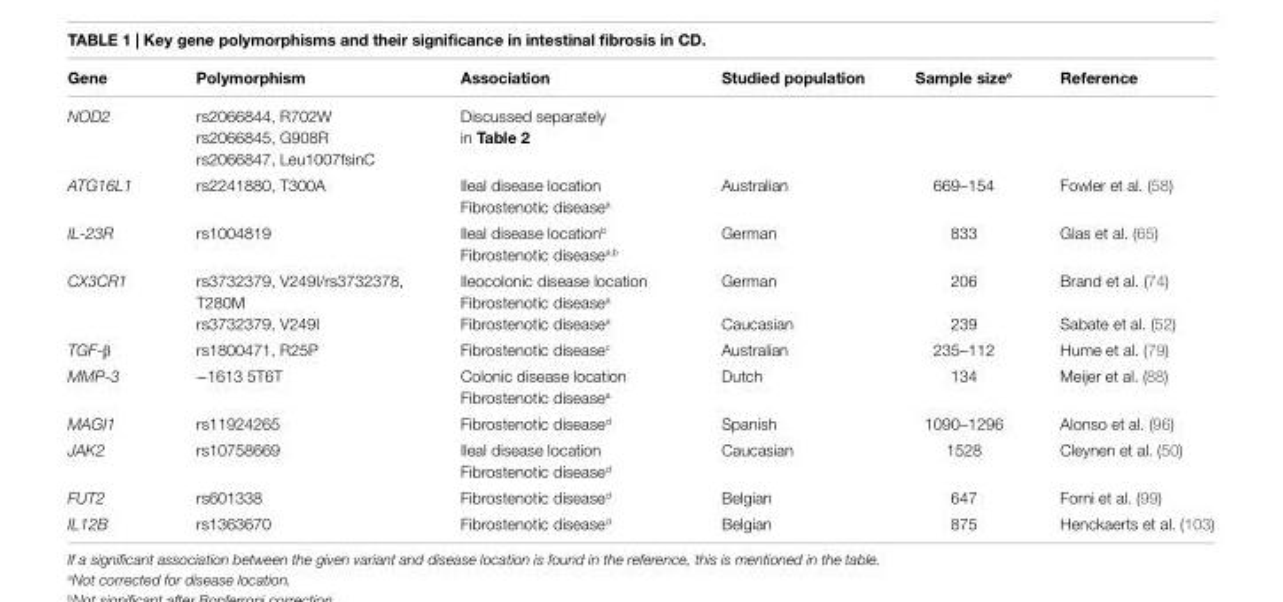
<table><thead><tr><td>Gene</td><td>Polymorphism</td><td>Association</td><td>Studied population</td><td>Sample size<sup>e</sup></td><td>Reference</td></tr></thead><tbody><tr><td rowspan="3">NOD2</td><td>rs2066844, R702W</td><td rowspan="3">Discussed separately in Table 2</td><td rowspan="3"></td><td rowspan="3"></td><td rowspan="3"></td></tr><tr><td>rs2066845, G908R</td></tr><tr><td>rs2066847, Leu1007fsinC</td></tr><tr><td rowspan="2">ATG16L1</td><td rowspan="2">rs2241880, T300A</td><td>Ileal disease location</td><td rowspan="2">Australian</td><td rowspan="2">669–154</td><td rowspan="2">Fowler et al. (58)</td></tr><tr><td>Fibrostenotic disease<sup>a</sup></td></tr><tr><td rowspan="2">IL-23R</td><td rowspan="2">rs1004819</td><td>Ileal disease location<sup>b</sup></td><td rowspan="2">German</td><td rowspan="2">833</td><td rowspan="2">Glas et al. (65)</td></tr><tr><td>Fibrostenotic disease<sup>a,b</sup></td></tr><tr><td rowspan="3">CX3CR1</td><td rowspan="2">rs3732379, V249I/rs3732378, T280M</td><td>Ileocolonic disease location</td><td rowspan="2">German</td><td rowspan="2">206</td><td rowspan="2">Brand et al. (74)</td></tr><tr><td>Fibrostenotic disease<sup>a</sup></td></tr><tr><td>rs3732379, V249I</td><td>Fibrostenotic disease<sup>a</sup></td><td>Caucasian</td><td>239</td><td>Sabate et al. (52)</td></tr><tr><td>TGF-β</td><td>rs1800471, R25P</td><td>Fibrostenotic disease<sup>c</sup></td><td>Australian</td><td>235–112</td><td>Hume et al. (79)</td></tr><tr><td rowspan="2">MMP-3</td><td rowspan="2">−1613 5T6T</td><td>Colonic disease location</td><td rowspan="2">Dutch</td><td rowspan="2">134</td><td rowspan="2">Meijer et al. (88)</td></tr><tr><td>Fibrostenotic disease<sup>a</sup></td></tr><tr><td>MAGI1</td><td>rs11924265</td><td>Fibrostenotic disease<sup>d</sup></td><td>Spanish</td><td>1090–1296</td><td>Alonso et al. (96)</td></tr><tr><td rowspan="2">JAK2</td><td rowspan="2">rs10758669</td><td>Ileal disease location</td><td rowspan="2">Caucasian</td><td rowspan="2">1528</td><td rowspan="2">Cleynen et al. (50)</td></tr><tr><td>Fibrostenotic disease<sup>d</sup></td></tr><tr><td>FUT2</td><td>rs601338</td><td>Fibrostenotic disease<sup>d</sup></td><td>Belgian</td><td>647</td><td>Forni et al. (99)</td></tr><tr><td>IL12B</td><td>rs1363670</td><td>Fibrostenotic disease<sup>d</sup></td><td>Belgian</td><td>875</td><td>Henckaerts et al. (103)</td></tr></tbody></table>